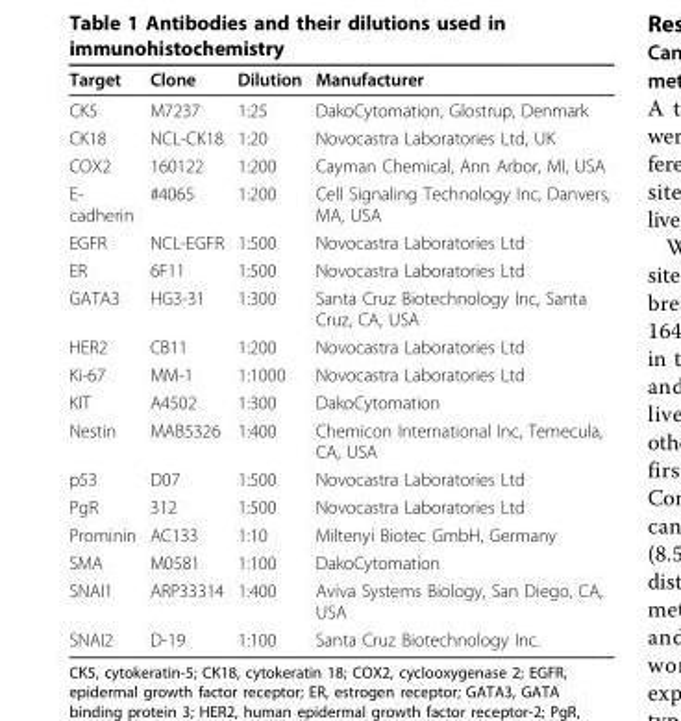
<table><thead><tr><td>Target</td><td>Clone</td><td>Dilution</td><td>Manufacturer</td></tr></thead><tbody><tr><td>CK5</td><td>M7237</td><td>1:25</td><td>DakoCytomation, Glostrup, Denmark</td></tr><tr><td>CK18</td><td>NCL-CK18</td><td>1:20</td><td>Novocastra Laboratories Ltd, UK</td></tr><tr><td>COX2</td><td>160122</td><td>1:200</td><td>Cayman Chemical, Ann Arbor, MI, USA</td></tr><tr><td>E- cadherin</td><td>#4065</td><td>1:200</td><td>Cell Signaling Technology Inc, Danvers, MA, USA</td></tr><tr><td>EGFR</td><td>NCL-EGFR</td><td>1:500</td><td>Novocastra Laboratories Ltd</td></tr><tr><td>ER</td><td>6F11</td><td>1:500</td><td>Novocastra Laboratories Ltd</td></tr><tr><td>GATA3</td><td>HG3-31</td><td>1:300</td><td>Santa Cruz Biotechnology Inc, Santa Cruz, CA, USA</td></tr><tr><td>HER2</td><td>CB11</td><td>1:200</td><td>Novocastra Laboratories Ltd</td></tr><tr><td>Ki-67</td><td>MM-1</td><td>1:1000</td><td>Novocastra Laboratories Ltd</td></tr><tr><td>KIT</td><td>A4502</td><td>1:300</td><td>DakoCytomation</td></tr><tr><td>Nestin</td><td>MAB5326</td><td>1:400</td><td>Chemicon International Inc, Temecula, CA, USA</td></tr><tr><td>p53</td><td>D07</td><td>1:500</td><td>Novocastra Laboratories Ltd</td></tr><tr><td>PgR</td><td>312</td><td>1:500</td><td>Novocastra Laboratories Ltd</td></tr><tr><td>Prominin</td><td>AC133</td><td>1:10</td><td>Miltenyi Biotec GmbH, Germany</td></tr><tr><td>SMA</td><td>M0581</td><td>1:100</td><td>DakoCytomation</td></tr><tr><td>SNAI1</td><td>ARP33314</td><td>1:400</td><td>Aviva Systems Biology, San Diego, CA, USA</td></tr><tr><td>SNAI2</td><td>D-19</td><td>1:100</td><td>Santa Cruz Biotechnology Inc.</td></tr></tbody></table>